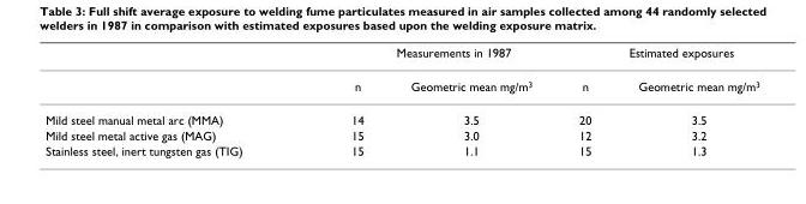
<table><thead><tr><td rowspan="2"></td><td colspan="2">Measurements in 1987</td><td colspan="2">Estimated exposures</td></tr><tr><td>n</td><td>Geometric mean mg/m<sup>3</sup></td><td>n</td><td>Geometric mean mg/m<sup>3</sup></td></tr></thead><tbody><tr><td>Mild steel manual metal arc (MMA)</td><td>14</td><td>3.5</td><td>20</td><td>3.5</td></tr><tr><td>Mild steel metal active gas (MAG)</td><td>15</td><td>3.0</td><td>12</td><td>3.2</td></tr><tr><td>Stainless steel, inert tungsten gas (TIG)</td><td>15</td><td>1.1</td><td>15</td><td>1.3</td></tr></tbody></table>